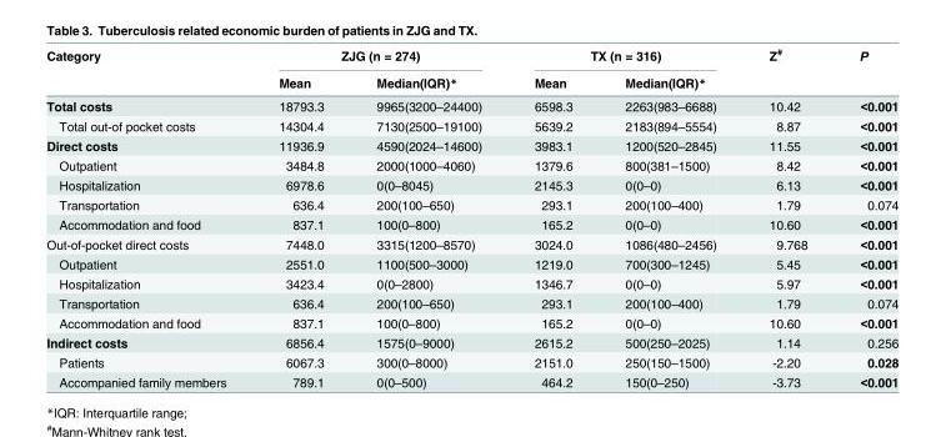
<table><thead><tr><td rowspan="2">Category</td><td colspan="2">ZJG (n = 274)</td><td colspan="2">TX (n = 316)</td><td rowspan="2">Z<sup>#</sup></td><td rowspan="2">P</td></tr><tr><td>Mean</td><td>Median(IQR)*</td><td>Mean</td><td>Median(IQR)*</td></tr></thead><tbody><tr><td>Total costs</td><td>18793.3</td><td>9965(3200–24400)</td><td>6598.3</td><td>2263(983–6688)</td><td>10.42</td><td>&lt;0.001</td></tr><tr><td>Total out-of pocket costs</td><td>14304.4</td><td>7130(2500–19100)</td><td>5639.2</td><td>2183(894–5554)</td><td>8.87</td><td>&lt;0.001</td></tr><tr><td>Direct costs</td><td>11936.9</td><td>4590(2024–14600)</td><td>3983.1</td><td>1200(520–2845)</td><td>11.55</td><td>&lt;0.001</td></tr><tr><td>Outpatient</td><td>3484.8</td><td>2000(1000–4060)</td><td>1379.6</td><td>800(381–1500)</td><td>8.42</td><td>&lt;0.001</td></tr><tr><td>Hospitalization</td><td>6978.6</td><td>0(0–8045)</td><td>2145.3</td><td>0(0–0)</td><td>6.13</td><td>&lt;0.001</td></tr><tr><td>Transportation</td><td>636.4</td><td>200(100–650)</td><td>293.1</td><td>200(100–400)</td><td>1.79</td><td>0.074</td></tr><tr><td>Accommodation and food</td><td>837.1</td><td>100(0–800)</td><td>165.2</td><td>0(0–0)</td><td>10.60</td><td>&lt;0.001</td></tr><tr><td>Out-of-pocket direct costs</td><td>7448.0</td><td>3315(1200–8570)</td><td>3024.0</td><td>1086(480–2456)</td><td>9.768</td><td>&lt;0.001</td></tr><tr><td>Outpatient</td><td>2551.0</td><td>1100(500–3000)</td><td>1219.0</td><td>700(300–1245)</td><td>5.45</td><td>&lt;0.001</td></tr><tr><td>Hospitalization</td><td>3423.4</td><td>0(0–2800)</td><td>1346.7</td><td>0(0–0)</td><td>5.97</td><td>&lt;0.001</td></tr><tr><td>Transportation</td><td>636.4</td><td>200(100–650)</td><td>293.1</td><td>200(100–400)</td><td>1.79</td><td>0.074</td></tr><tr><td>Accommodation and food</td><td>837.1</td><td>100(0–800)</td><td>165.2</td><td>0(0–0)</td><td>10.60</td><td>&lt;0.001</td></tr><tr><td>Indirect costs</td><td>6856.4</td><td>1575(0–9000)</td><td>2615.2</td><td>500(250–2025)</td><td>1.14</td><td>0.256</td></tr><tr><td>Patients</td><td>6067.3</td><td>300(0–8000)</td><td>2151.0</td><td>250(150–1500)</td><td>-2.20</td><td>0.028</td></tr><tr><td>Accompanied family members</td><td>789.1</td><td>0(0–500)</td><td>464.2</td><td>150(0–250)</td><td>-3.73</td><td>&lt;0.001</td></tr></tbody></table>